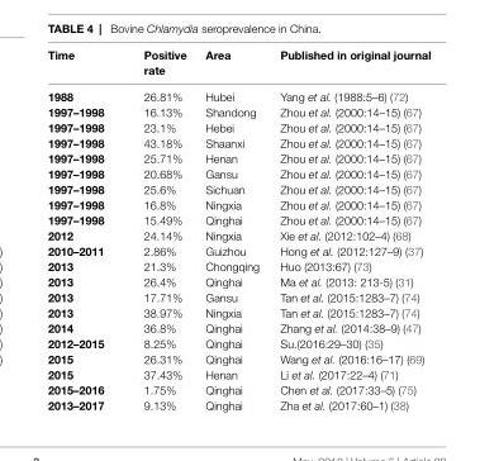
<table><thead><tr><td>time</td><td>Positive rate</td><td>Area</td><td>Published in original journal</td></tr></thead><tbody><tr><td>1988</td><td>26.81%</td><td>Hubei</td><td>Yang et al. (1988:5–6) (72)</td></tr><tr><td>1997–1998</td><td>16.13%</td><td>Shandong</td><td>Zhou et al. (2000:14–15) (67)</td></tr><tr><td>1997–1998</td><td>23.1%</td><td>Hebei</td><td>Zhou et al. (2000:14–15) (67)</td></tr><tr><td>1997–1998</td><td>43.18%</td><td>Shaanxi</td><td>Zhou et al. (2000:14–15) (67)</td></tr><tr><td>1997–1998</td><td>25.71%</td><td>Henan</td><td>Zhou et al. (2000:14–15) (67)</td></tr><tr><td>1997–1998</td><td>20.68%</td><td>Gansu</td><td>Zhou et al. (2000:14–15) (67)</td></tr><tr><td>1997–1998</td><td>25.6%</td><td>Sichuan</td><td>Zhou et al. (2000:14–15) (67)</td></tr><tr><td>1997–1998</td><td>16.8%</td><td>Ningxia</td><td>Zhou et al. (2000:14–15) (67)</td></tr><tr><td>1997–1998</td><td>15.49%</td><td>Qinghai</td><td>Zhou et al. (2000:14–15) (67)</td></tr><tr><td>2012</td><td>24.14%</td><td>Ningxia</td><td>Xie et al. (2012:102–4) (68)</td></tr><tr><td>2010–2011</td><td>2.86%</td><td>Guizhou</td><td>Hong et al. (2012:127–9) (37)</td></tr><tr><td>2013</td><td>21.3%</td><td>Chongqing</td><td>Huo (2013:67) (73)</td></tr><tr><td>2013</td><td>26.4%</td><td>Qinghai</td><td>Ma et al. (2013: 213-5) (31)</td></tr><tr><td>2013</td><td>17.71%</td><td>Gansu</td><td>Tan et al. (2015:1283–7) (74)</td></tr><tr><td>2013</td><td>38.97%</td><td>Ningxia</td><td>Tan et al. (2015:1283–7) (74)</td></tr><tr><td>2014</td><td>36.8%</td><td>Qinghai</td><td>Zhang et al. (2014:38–9) (47)</td></tr><tr><td>2012–2015</td><td>8.25%</td><td>Qinghai</td><td>Su.(2016:29–30) (35)</td></tr><tr><td>2015</td><td>26.31%</td><td>Qinghai</td><td>Wang et al. (2016:16–17) (69)</td></tr><tr><td>2015</td><td>37.43%</td><td>Henan</td><td>Li et al. (2017:22–4) (71)</td></tr><tr><td>2015–2016</td><td>1.75%</td><td>Qinghai</td><td>Chen et al. (2017:33–5) (75)</td></tr><tr><td>2013–2017</td><td>9.13%</td><td>Qinghai</td><td>Zha et al. (2017:60–1) (38)</td></tr></tbody></table>